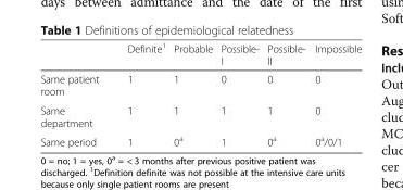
<table><thead><tr><td></td><td>Definite<sup>1</sup></td><td>Probable</td><td>Possible- I</td><td>Possible- II</td><td>Impossible</td></tr></thead><tbody><tr><td>Same patient room</td><td>1</td><td>1</td><td>0</td><td>0</td><td>0</td></tr><tr><td>Same department</td><td>1</td><td>1</td><td>1</td><td>1</td><td>0</td></tr><tr><td>Same period</td><td>1</td><td>0<sup>a</sup></td><td>1</td><td>0<sup>a</sup></td><td>0<sup>a</sup>/0/1</td></tr></tbody></table>